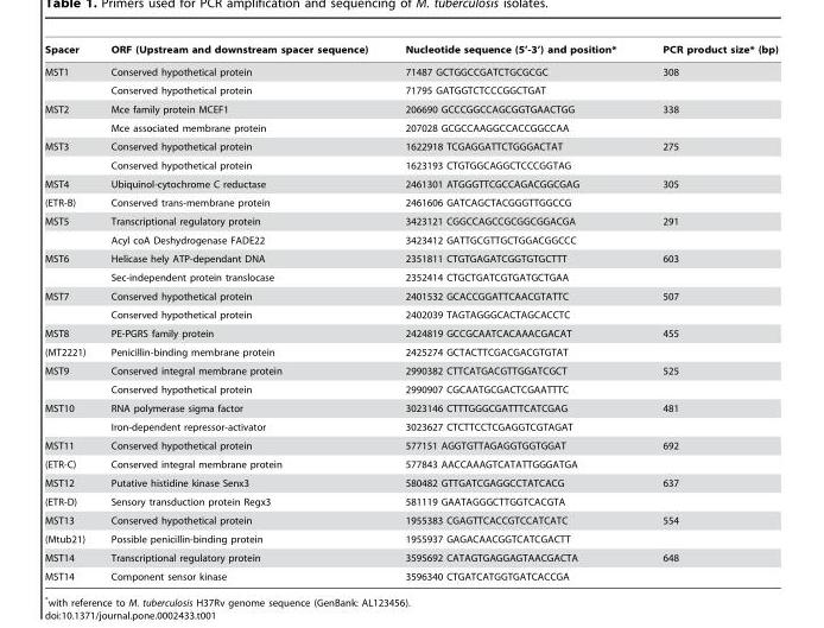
<table><thead><tr><td>Spacer</td><td>ORF (Upstream and downstream spacer sequence)</td><td>Nucleotide sequence (5’-3’) and position*</td><td>PCR product size* (bp)</td></tr></thead><tbody><tr><td rowspan="2">MST1</td><td>Conserved hypothetical protein</td><td>71487 GCTGGCCGATCTGCGCGC</td><td>308</td></tr><tr><td>Conserved hypothetical protein</td><td>71795 GATGGTCTCCCGGCTGAT</td><td></td></tr><tr><td rowspan="2">MST2</td><td>Mce family protein MCEF1</td><td>206690 GCCCGGCCAGCGGTGAACTGG</td><td>338</td></tr><tr><td>Mce associated membrane protein</td><td>207028 GCGCCAAGGCCACCGGCCAA</td><td></td></tr><tr><td rowspan="2">MST3</td><td>Conserved hypothetical protein</td><td>1622918 TCGAGGATTCTGGGACTAT</td><td>275</td></tr><tr><td>Conserved hypothetical protein</td><td>1623193 CTGTGGCAGGCTCCCGGTAG</td><td></td></tr><tr><td>MST4</td><td>Ubiquinol-cytochrome C reductase</td><td>2461301 ATGGGTTCGCCAGACGGCGAG</td><td>305</td></tr><tr><td>(ETR-B)</td><td>Conserved trans-membrane protein</td><td>2461606 GATCAGCTACGGGTTGGCCG</td><td></td></tr><tr><td rowspan="2">MST5</td><td>Transcriptional regulatory protein</td><td>3423121 CGGCCAGCCGCGGCGGACGA</td><td>291</td></tr><tr><td>Acyl coA Deshydrogenase FADE22</td><td>3423412 GATTGCGTTGCTGGACGGCCC</td><td></td></tr><tr><td rowspan="2">MST6</td><td>Helicase hely ATP-dependant DNA</td><td>2351811 CTGTGAGATCGGTGTGCTTT</td><td>603</td></tr><tr><td>Sec-independent protein translocase</td><td>2352414 CTGCTGATCGTGATGCTGAA</td><td></td></tr><tr><td rowspan="2">MST7</td><td>Conserved hypothetical protein</td><td>2401532 GCACCGGATTCAACGTATTC</td><td>507</td></tr><tr><td>Conserved hypothetical protein</td><td>2402039 TAGTAGGGCACTAGCACCTC</td><td></td></tr><tr><td>MST8</td><td>PE-PGRS family protein</td><td>2424819 GCCGCAATCACAAACGACAT</td><td>455</td></tr><tr><td>(MT2221)</td><td>Penicillin-binding membrane protein</td><td>2425274 GCTACTTCGACGACGTGTAT</td><td></td></tr><tr><td rowspan="2">MST9</td><td>Conserved integral membrane protein</td><td>2990382 CTTCATGACGTTGGATCGCT</td><td>525</td></tr><tr><td>Conserved hypothetical protein</td><td>2990907 CGCAATGCGACTCGAATTTC</td><td></td></tr><tr><td rowspan="2">MST10</td><td>RNA polymerase sigma factor</td><td>3023146 CTTTGGGCGATTTCATCGAG</td><td>481</td></tr><tr><td>Iron-dependent repressor-activator</td><td>3023627 CTCTTCCTCGAGGTCGTAGAT</td><td></td></tr><tr><td>MST11</td><td>Conserved hypothetical protein</td><td>577151 AGGTGTTAGAGGTGGTGGAT</td><td>692</td></tr><tr><td>(ETR-C)</td><td>Conserved integral membrane protein</td><td>577843 AACCAAAGTCATATTGGGATGA</td><td></td></tr><tr><td>MST12</td><td>Putative histidine kinase Senx3</td><td>580482 GTTGATCGAGGCCTATCACG</td><td>637</td></tr><tr><td>(ETR-D)</td><td>Sensory transduction protein Regx3</td><td>581119 GAATAGGGCTTGGTCACGTA</td><td></td></tr><tr><td>MST13</td><td>Conserved hypothetical protein</td><td>1955383 CGAGTTCACCGTCCATCATC</td><td>554</td></tr><tr><td>(Mtub21)</td><td>Possible penicillin-binding protein</td><td>1955937 GAGACAACGGTCATCGACTT</td><td></td></tr><tr><td>MST14</td><td>Transcriptional regulatory protein</td><td>3595692 CATAGTGAGGAGTAACGACTA</td><td>648</td></tr><tr><td>MST14</td><td>Component sensor kinase</td><td>3596340 CTGATCATGGTGATCACCGA</td><td></td></tr></tbody></table>